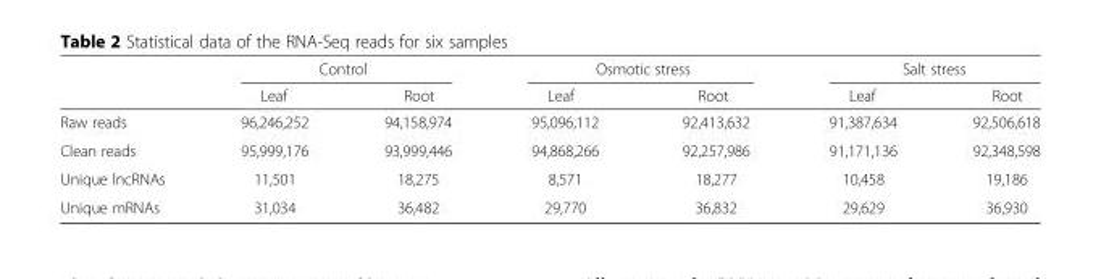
<table><thead><tr><td rowspan="2"></td><td colspan="2">Control</td><td colspan="2">Osmotic stress</td><td colspan="2">Salt stress</td></tr><tr><td>Leaf</td><td>Root</td><td>Leaf</td><td>Root</td><td>Leaf</td><td>Root</td></tr></thead><tbody><tr><td>Raw reads</td><td>96,246,252</td><td>94,158,974</td><td>95,096,112</td><td>92,413,632</td><td>91,387,634</td><td>92,506,618</td></tr><tr><td>Clean reads</td><td>95,999,176</td><td>93,999,446</td><td>94,868,266</td><td>92,257,986</td><td>91,171,136</td><td>92,348,598</td></tr><tr><td>Unique lncRNAs</td><td>11,501</td><td>18,275</td><td>8,571</td><td>18,277</td><td>10,458</td><td>19,186</td></tr><tr><td>Unique mRNAs</td><td>31,034</td><td>36,482</td><td>29,770</td><td>36,832</td><td>29,629</td><td>36,930</td></tr></tbody></table>